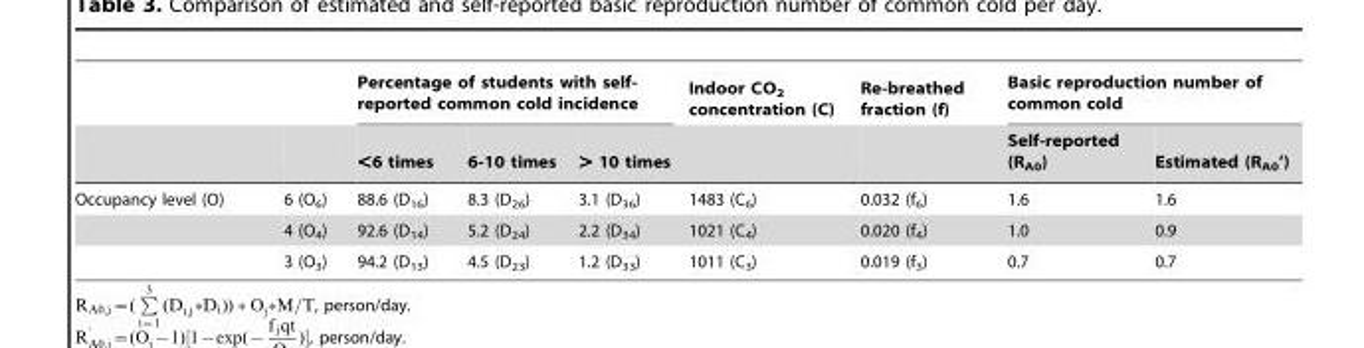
<table><thead><tr><td rowspan="2"></td><td rowspan="2"></td><td colspan="3">Percentage of students with self- reported common cold incidence</td><td rowspan="2">Indoor CO<sub>2</sub> concentration (C)</td><td rowspan="2">Re-breathed fraction (f)</td><td colspan="2">Basic reproduction number of common cold</td></tr><tr><td>&lt;6 times</td><td>6-10 times</td><td>&gt; 10 times</td><td>Self-reported (R<sub>A0</sub>)</td><td>Estimated (R<sub>A0</sub>’)</td></tr></thead><tbody><tr><td rowspan="3">Occupancy level (O)</td><td>6 (O<sub>6</sub>)</td><td>88.6 (D<sub>16</sub>)</td><td>8.3 (D<sub>26</sub>)</td><td>3.1 (D<sub>36</sub>)</td><td>1483 (C<sub>6</sub>)</td><td>0.032 (f<sub>6</sub>)</td><td>1.6</td><td>1.6</td></tr><tr><td>4 (O<sub>4</sub>)</td><td>92.6 (D<sub>14</sub>)</td><td>5.2 (D<sub>24</sub>)</td><td>2.2 (D<sub>34</sub>)</td><td>1021 (C<sub>4</sub>)</td><td>0.020 (f<sub>4</sub>)</td><td>1.0</td><td>0.9</td></tr><tr><td>3 (O<sub>3</sub>)</td><td>94.2 (D<sub>13</sub>)</td><td>4.5 (D<sub>23</sub>)</td><td>1.2 (D<sub>33</sub>)</td><td>1011 (C<sub>3</sub>)</td><td>0.019 (f<sub>3</sub>)</td><td>0.7</td><td>0.7</td></tr></tbody></table>